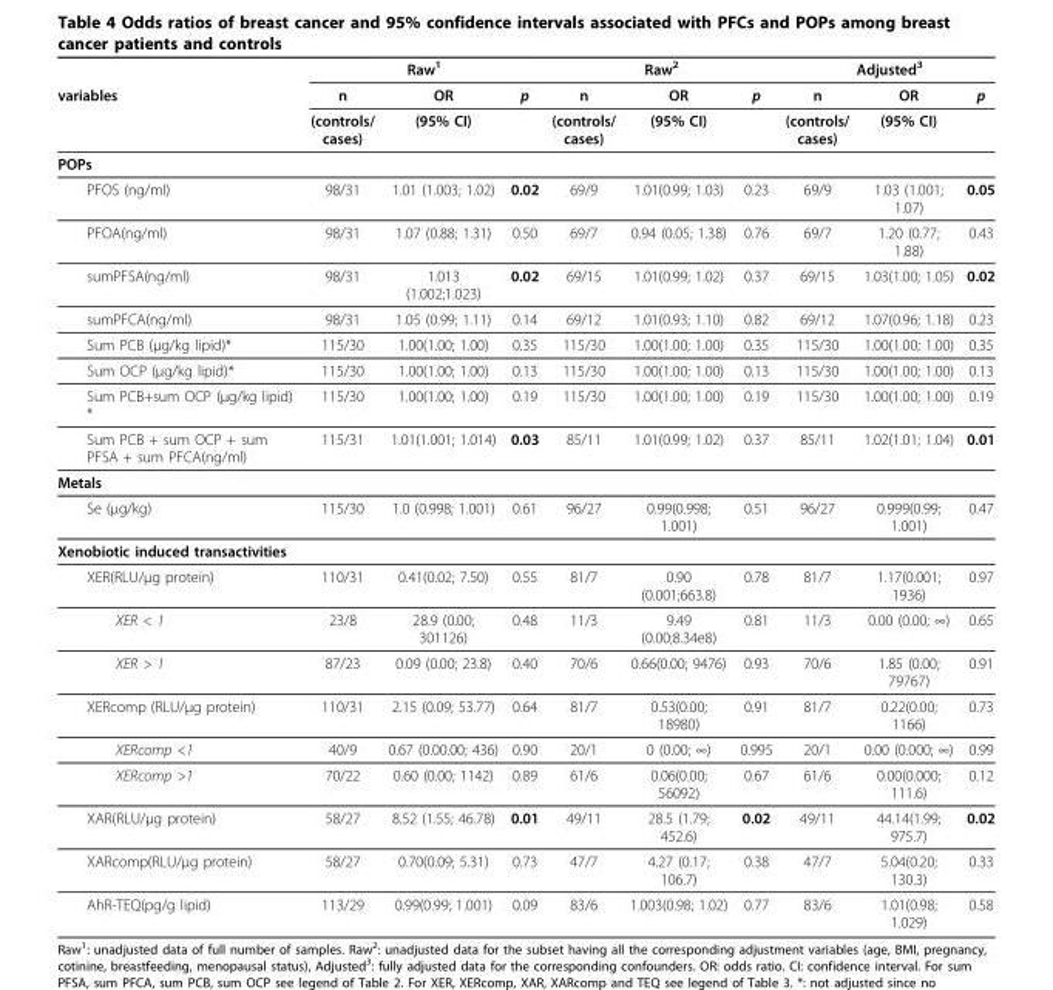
<table><thead><tr><td rowspan="3">variables</td><td colspan="3">Raw1</td><td colspan="3">Raw2</td><td colspan="3">Adjusted3</td></tr><tr><td rowspan="2">n (controls/ cases)</td><td rowspan="2">OR (95% CI)</td><td rowspan="2">p</td><td rowspan="2">n (controls/ cases)</td><td rowspan="2">OR (95% CI)</td><td rowspan="2">p</td><td rowspan="2">n (controls/ cases)</td><td rowspan="2">OR (95% CI)</td><td rowspan="2">p</td></tr><tr></tr></thead><tbody><tr><td colspan="10">POPs</td></tr><tr><td>PFOS (ng/ml)</td><td>98/31</td><td>1.01 (1.003; 1.02)</td><td>0.02</td><td>69/9</td><td>1.01(0.99; 1.03)</td><td>0.23</td><td>69/9</td><td>1.03 (1.001; 1.07)</td><td>0.05</td></tr><tr><td>PFOA(ng/ml)</td><td>98/31</td><td>1.07 (0.88; 1.31)</td><td>0.50</td><td>69/7</td><td>0.94 (0.05; 1.38)</td><td>0.76</td><td>69/7</td><td>1.20 (0.77; 1.88)</td><td>0.43</td></tr><tr><td>sumPFSA(ng/ml)</td><td>98/31</td><td>1.013 (1.002;1.023)</td><td>0.02</td><td>69/15</td><td>1.01(0.99; 1.02)</td><td>0.37</td><td>69/15</td><td>1.03(1.00; 1.05)</td><td>0.02</td></tr><tr><td>sumPFCA(ng/ml)</td><td>98/31</td><td>1.05 (0.99; 1.11)</td><td>0.14</td><td>69/12</td><td>1.01(0.93; 1.10)</td><td>0.82</td><td>69/12</td><td>1.07(0.96; 1.18)</td><td>0.23</td></tr><tr><td>Sum PCB (μg/kg lipid)*</td><td>115/30</td><td>1.00(1.00; 1.00)</td><td>0.35</td><td>115/30</td><td>1.00(1.00; 1.00)</td><td>0.35</td><td>115/30</td><td>1.00(1.00; 1.00)</td><td>0.35</td></tr><tr><td>Sum OCP (μg/kg lipid)*</td><td>115/30</td><td>1.00(1.00; 1.00)</td><td>0.13</td><td>115/30</td><td>1.00(1.00; 1.00)</td><td>0.13</td><td>115/30</td><td>1.00(1.00; 1.00)</td><td>0.13</td></tr><tr><td>Sum PCB+sum OCP (μg/kg lipid) *</td><td>115/30</td><td>1.00(1.00; 1.00)</td><td>0.19</td><td>115/30</td><td>1.00(1.00; 1.00)</td><td>0.19</td><td>115/30</td><td>1.00(1.00; 1.00)</td><td>0.19</td></tr><tr><td>Sum PCB + sum OCP + sum PFSA + sum PFCA(ng/ml)</td><td>115/31</td><td>1.01(1.001; 1.014)</td><td>0.03</td><td>85/11</td><td>1.01(0.99; 1.02)</td><td>0.37</td><td>85/11</td><td>1.02(1.01; 1.04)</td><td>0.01</td></tr><tr><td colspan="10">Metals</td></tr><tr><td>Se (μg/kg)</td><td>115/30</td><td>1.0 (0.998; 1.001)</td><td>0.61</td><td>96/27</td><td>0.99(0.998; 1.001)</td><td>0.51</td><td>96/27</td><td>0.999(0.99; 1.001)</td><td>0.47</td></tr><tr><td colspan="10">Xenobiotic induced transactivities</td></tr><tr><td>XER(RLU/μg protein)</td><td>110/31</td><td>0.41(0.02; 7.50)</td><td>0.55</td><td>81/7</td><td>0.90 (0.001;663.8)</td><td>0.78</td><td>81/7</td><td>1.17(0.001; 1936)</td><td>0.97</td></tr><tr><td>XER &lt; 1</td><td>23/8</td><td>28.9 (0.00; 301126)</td><td>0.48</td><td>11/3</td><td>9.49 (0.00;8.34e8)</td><td>0.81</td><td>11/3</td><td>0.00 (0.00; ∞)</td><td>0.65</td></tr><tr><td>XER &gt; 1</td><td>87/23</td><td>0.09 (0.00; 23.8)</td><td>0.40</td><td>70/6</td><td>0.66(0.00; 9476)</td><td>0.93</td><td>70/6</td><td>1.85 (0.00; 79767)</td><td>0.91</td></tr><tr><td>XERcomp (RLU/μg protein)</td><td>110/31</td><td>2.15 (0.09; 53.77)</td><td>0.64</td><td>81/7</td><td>0.53(0.00; 18980)</td><td>0.91</td><td>81/7</td><td>0.22(0.00; 1166)</td><td>0.73</td></tr><tr><td>XERcomp &lt;1</td><td>40/9</td><td>0.67 (0.00.00; 436)</td><td>0.90</td><td>20/1</td><td>0 (0.00; ∞)</td><td>0.995</td><td>20/1</td><td>0.00 (0.000; ∞)</td><td>0.99</td></tr><tr><td>XERcomp &gt;1</td><td>70/22</td><td>0.60 (0.00; 1142)</td><td>0.89</td><td>61/6</td><td>0.06(0.00; 56092)</td><td>0.67</td><td>61/6</td><td>0.00(0.000; 111.6)</td><td>0.12</td></tr><tr><td>XAR(RLU/μg protein)</td><td>58/27</td><td>8.52 (1.55; 46.78)</td><td>0.01</td><td>49/11</td><td>28.5 (1.79; 452.6)</td><td>0.02</td><td>49/11</td><td>44.14(1.99; 975.7)</td><td>0.02</td></tr><tr><td>XARcomp(RLU/μg protein)</td><td>58/27</td><td>0.70(0.09; 5.31)</td><td>0.73</td><td>47/7</td><td>4.27 (0.17; 106.7)</td><td>0.38</td><td>47/7</td><td>5.04(0.20; 130.3)</td><td>0.33</td></tr><tr><td>AhR-TEQ(pg/g lipid)</td><td>113/29</td><td>0.99(0.99; 1.001)</td><td>0.09</td><td>83/6</td><td>1.003(0.98; 1.02)</td><td>0.77</td><td>83/6</td><td>1.01(0.98; 1.029)</td><td>0.58</td></tr></tbody></table>